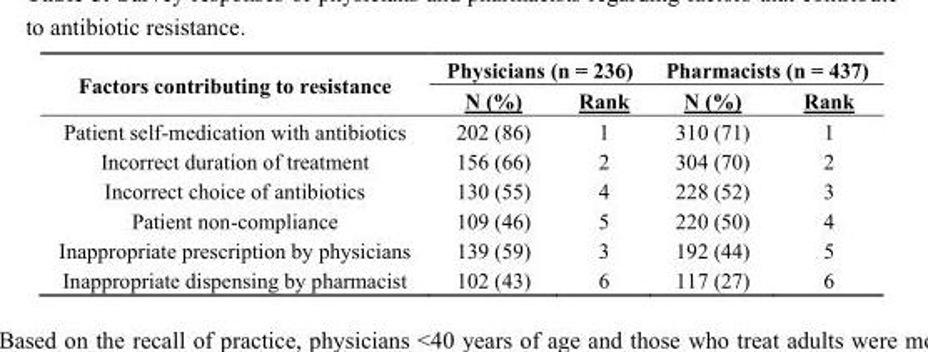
<table><thead><tr><td rowspan="2">Factors contributing to resistance</td><td colspan="2">Physicians (n = 236)</td><td colspan="2">Pharmacists (n = 437)</td></tr><tr><td>N (%)</td><td>Rank</td><td>N (%)</td><td>Rank</td></tr></thead><tbody><tr><td>Patient self-medication with antibiotics</td><td>202 (86)</td><td>1</td><td>310 (71)</td><td>1</td></tr><tr><td>Incorrect duration of treatment</td><td>156 (66)</td><td>2</td><td>304 (70)</td><td>2</td></tr><tr><td>Incorrect choice of antibiotics</td><td>130 (55)</td><td>4</td><td>228 (52)</td><td>3</td></tr><tr><td>Patient non-compliance</td><td>109 (46)</td><td>5</td><td>220 (50)</td><td>4</td></tr><tr><td>Inappropriate prescription by physicians</td><td>139 (59)</td><td>3</td><td>192 (44)</td><td>5</td></tr><tr><td>Inappropriate dispensing by pharmacist</td><td>102 (43)</td><td>6</td><td>117 (27)</td><td>6</td></tr></tbody></table>